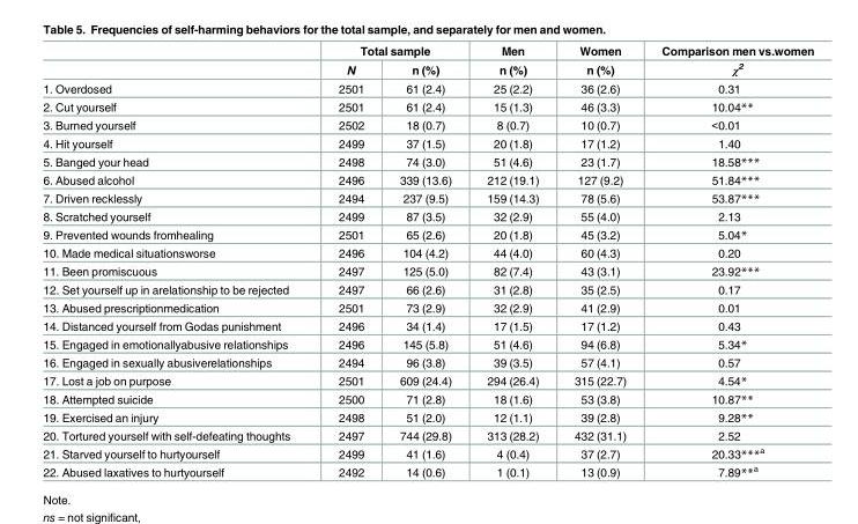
<table><thead><tr><td rowspan="2"></td><td colspan="2">Total sample</td><td rowspan="2">Men n (%)</td><td rowspan="2">Women n (%)</td><td rowspan="2">Comparison men vs.women χ<sup>2</sup></td></tr><tr><td>N</td><td>n (%)</td></tr></thead><tbody><tr><td>1. Overdosed</td><td>2501</td><td>61 (2.4)</td><td>25 (2.2)</td><td>36 (2.6)</td><td>0.31</td></tr><tr><td>2. Cut yourself</td><td>2501</td><td>61 (2.4)</td><td>15 (1.3)</td><td>46 (3.3)</td><td>10.04**</td></tr><tr><td>3. Burned yourself</td><td>2502</td><td>18 (0.7)</td><td>8 (0.7)</td><td>10 (0.7)</td><td>&lt;0.01</td></tr><tr><td>4. Hit yourself</td><td>2499</td><td>37 (1.5)</td><td>20 (1.8)</td><td>17 (1.2)</td><td>1.40</td></tr><tr><td>5. Banged your head</td><td>2498</td><td>74 (3.0)</td><td>51 (4.6)</td><td>23 (1.7)</td><td>18.58***</td></tr><tr><td>6. Abused alcohol</td><td>2496</td><td>339 (13.6)</td><td>212 (19.1)</td><td>127 (9.2)</td><td>51.84***</td></tr><tr><td>7. Driven recklessly</td><td>2494</td><td>237 (9.5)</td><td>159 (14.3)</td><td>78 (5.6)</td><td>53.87***</td></tr><tr><td>8. Scratched yourself</td><td>2499</td><td>87 (3.5)</td><td>32 (2.9)</td><td>55 (4.0)</td><td>2.13</td></tr><tr><td>9. Prevented wounds fromhealing</td><td>2501</td><td>65 (2.6)</td><td>20 (1.8)</td><td>45 (3.2)</td><td>5.04*</td></tr><tr><td>10. Made medical situationsworse</td><td>2496</td><td>104 (4.2)</td><td>44 (4.0)</td><td>60 (4.3)</td><td>0.20</td></tr><tr><td>11. Been promiscuous</td><td>2497</td><td>125 (5.0)</td><td>82 (7.4)</td><td>43 (3.1)</td><td>23.92***</td></tr><tr><td>12. Set yourself up in arelationship to be rejected</td><td>2497</td><td>66 (2.6)</td><td>31 (2.8)</td><td>35 (2.5)</td><td>0.17</td></tr><tr><td>13. Abused prescriptionmedication</td><td>2501</td><td>73 (2.9)</td><td>32 (2.9)</td><td>41 (2.9)</td><td>0.01</td></tr><tr><td>14. Distanced yourself from Godas punishment</td><td>2496</td><td>34 (1.4)</td><td>17 (1.5)</td><td>17 (1.2)</td><td>0.43</td></tr><tr><td>15. Engaged in emotionallyabusive relationships</td><td>2496</td><td>145 (5.8)</td><td>51 (4.6)</td><td>94 (6.8)</td><td>5.34*</td></tr><tr><td>16. Engaged in sexually abusiverelationships</td><td>2494</td><td>96 (3.8)</td><td>39 (3.5)</td><td>57 (4.1)</td><td>0.57</td></tr><tr><td>17. Lost a job on purpose</td><td>2501</td><td>609 (24.4)</td><td>294 (26.4)</td><td>315 (22.7)</td><td>4.54*</td></tr><tr><td>18. Attempted suicide</td><td>2500</td><td>71 (2.8)</td><td>18 (1.6)</td><td>53 (3.8)</td><td>10.87**</td></tr><tr><td>19. Exercised an injury</td><td>2498</td><td>51 (2.0)</td><td>12 (1.1)</td><td>39 (2.8)</td><td>9.28**</td></tr><tr><td>20. Tortured yourself with self-defeating thoughts</td><td>2497</td><td>744 (29.8)</td><td>313 (28.2)</td><td>432 (31.1)</td><td>2.52</td></tr><tr><td>21. Starved yourself to hurtyourself</td><td>2499</td><td>41 (1.6)</td><td>4 (0.4)</td><td>37 (2.7)</td><td>20.33***<sup>a</sup></td></tr><tr><td>22. Abused laxatives to hurtyourself</td><td>2492</td><td>14 (0.6)</td><td>1 (0.1)</td><td>13 (0.9)</td><td>7.89**<sup>a</sup></td></tr></tbody></table>